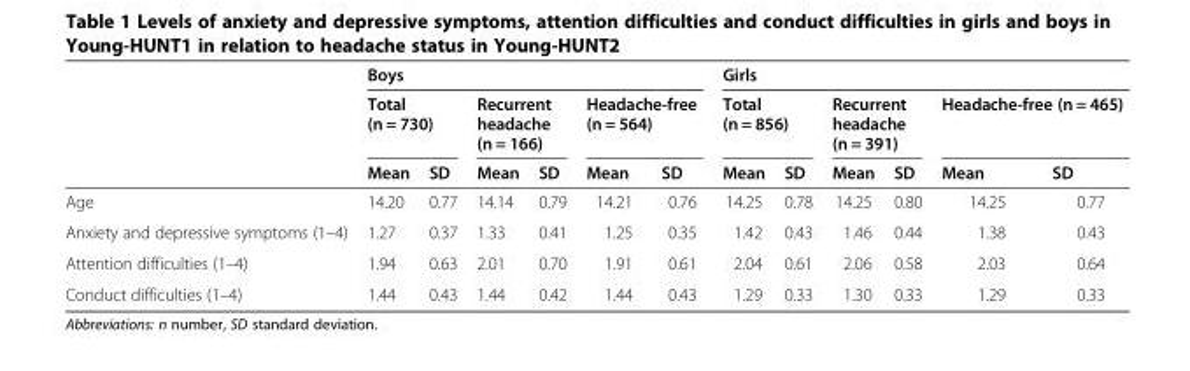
<table><thead><tr><td rowspan="3"></td><td colspan="6">Boys</td><td>Girls</td><td></td><td></td><td></td><td></td><td></td></tr><tr><td colspan="2">Total (n = 730)</td><td colspan="2">Recurrent headache (n = 166)</td><td colspan="2">Headache-free (n = 564)</td><td colspan="2">Total (n = 856)</td><td colspan="2">Recurrent headache (n = 391)</td><td colspan="2">Headache-free (n = 465)</td></tr><tr><td>Mean</td><td>SD</td><td>Mean</td><td>SD</td><td>Mean</td><td>SD</td><td>Mean</td><td>SD</td><td>Mean</td><td>SD</td><td>Mean</td><td>SD</td></tr></thead><tbody><tr><td>Age</td><td>14.20</td><td>0.77</td><td>14.14</td><td>0.79</td><td>14.21</td><td>0.76</td><td>14.25</td><td>0.78</td><td>14.25</td><td>0.80</td><td>14.25</td><td>0.77</td></tr><tr><td>Anxiety and depressive symptoms (1–4)</td><td>1.27</td><td>0.37</td><td>1.33</td><td>0.41</td><td>1.25</td><td>0.35</td><td>1.42</td><td>0.43</td><td>1.46</td><td>0.44</td><td>1.38</td><td>0.43</td></tr><tr><td>Attention difficulties (1–4)</td><td>1.94</td><td>0.63</td><td>2.01</td><td>0.70</td><td>1.91</td><td>0.61</td><td>2.04</td><td>0.61</td><td>2.06</td><td>0.58</td><td>2.03</td><td>0.64</td></tr><tr><td>Conduct difficulties (1–4)</td><td>1.44</td><td>0.43</td><td>1.44</td><td>0.42</td><td>1.44</td><td>0.43</td><td>1.29</td><td>0.33</td><td>1.30</td><td>0.33</td><td>1.29</td><td>0.33</td></tr></tbody></table>